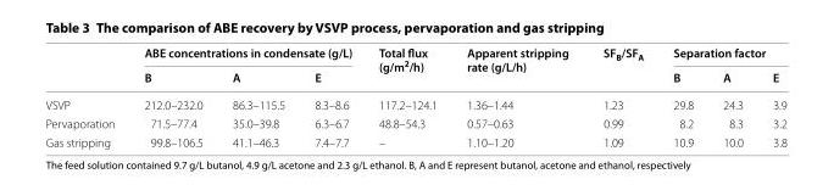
<table><thead><tr><td rowspan="2"></td><td colspan="3">ABE concentrations in condensate (g/L)</td><td rowspan="2">Total flux (g/m<sup>2</sup>/h)</td><td rowspan="2">Apparent stripping rate (g/L/h)</td><td rowspan="2">SF<sub>B</sub>/SF<sub>A</sub></td><td colspan="3">Separation factor</td></tr><tr><td>B</td><td>A</td><td>E</td><td>B</td><td>A</td><td>E</td></tr></thead><tbody><tr><td>VSVP</td><td>212.0–232.0</td><td>86.3–115.5</td><td>8.3–8.6</td><td>117.2–124.1</td><td>1.36–1.44</td><td>1.23</td><td>29.8</td><td>24.3</td><td>3.9</td></tr><tr><td>Pervaporation</td><td>71.5–77.4</td><td>35.0–39.8</td><td>6.3–6.7</td><td>48.8–54.3</td><td>0.57–0.63</td><td>0.99</td><td>8.2</td><td>8.3</td><td>3.2</td></tr><tr><td>Gas stripping</td><td>99.8–106.5</td><td>41.1–46.3</td><td>7.4–7.7</td><td>–</td><td>1.10–1.20</td><td>1.09</td><td>10.9</td><td>10.0</td><td>3.8</td></tr></tbody></table>